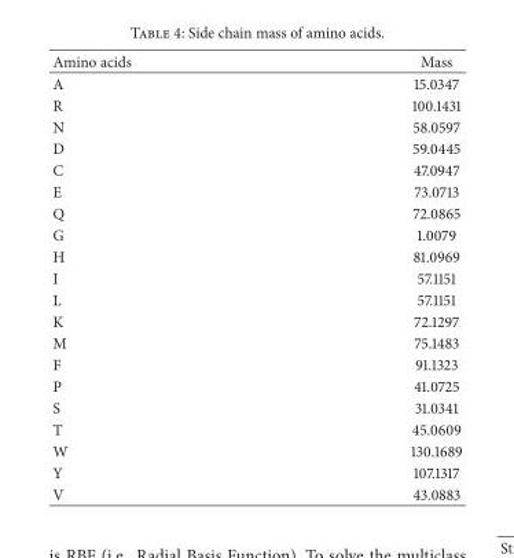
<table><thead><tr><td>Amino acids</td><td>Mass</td></tr></thead><tbody><tr><td>A</td><td>15.0347</td></tr><tr><td>R</td><td>100.1431</td></tr><tr><td>N</td><td>58.0597</td></tr><tr><td>D</td><td>59.0445</td></tr><tr><td>C</td><td>47.0947</td></tr><tr><td>E</td><td>73.0713</td></tr><tr><td>Q</td><td>72.0865</td></tr><tr><td>G</td><td>1.0079</td></tr><tr><td>H</td><td>81.0969</td></tr><tr><td>I</td><td>57.1151</td></tr><tr><td>L</td><td>57.1151</td></tr><tr><td>K</td><td>72.1297</td></tr><tr><td>M</td><td>75.1483</td></tr><tr><td>F</td><td>91.1323</td></tr><tr><td>P</td><td>41.0725</td></tr><tr><td>S</td><td>31.0341</td></tr><tr><td>T</td><td>45.0609</td></tr><tr><td>W</td><td>130.1689</td></tr><tr><td>Y</td><td>107.1317</td></tr><tr><td>V</td><td>43.0883</td></tr></tbody></table>